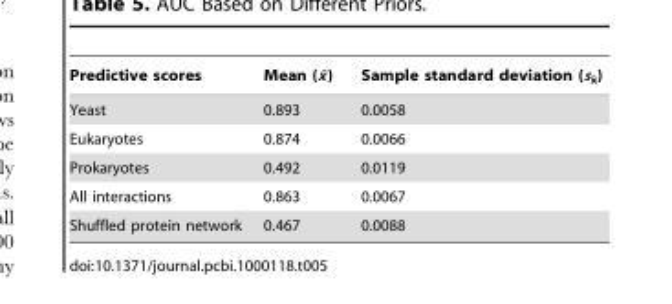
<table><thead><tr><td>Predictive scores</td><td>Mean (x¯)</td><td>Sample standard deviation (sx¯)</td></tr></thead><tbody><tr><td>Yeast</td><td>0.893</td><td>0.0058</td></tr><tr><td>Eukaryotes</td><td>0.874</td><td>0.0066</td></tr><tr><td>Prokaryotes</td><td>0.492</td><td>0.0119</td></tr><tr><td>All interactions</td><td>0.863</td><td>0.0067</td></tr><tr><td>Shuffled protein network</td><td>0.467</td><td>0.0088</td></tr></tbody></table>